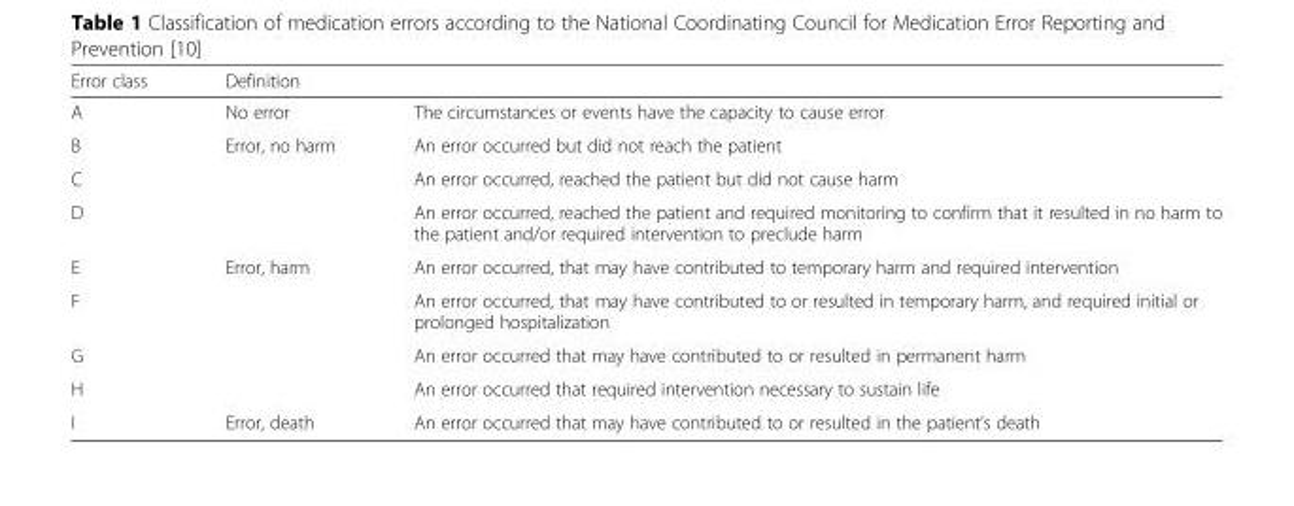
<table><thead><tr><td rowspan="2">Error class A</td><td colspan="2">Definition</td></tr><tr><td>No error</td><td>The circumstances or events have the capacity to cause error</td></tr></thead><tbody><tr><td>B</td><td rowspan="3">Error, no harm</td><td>An error occurred but did not reach the patient</td></tr><tr><td>C</td><td>An error occurred, reached the patient but did not cause harm</td></tr><tr><td>D</td><td>An error occurred, reached the patient and required monitoring to confirm that it resulted in no harm to the patient and/or required intervention to preclude harm</td></tr><tr><td>E</td><td rowspan="4">Error, harm</td><td>An error occurred, that may have contributed to temporary harm and required intervention</td></tr><tr><td>F</td><td>An error occurred, that may have contributed to or resulted in temporary harm, and required initial or prolonged hospitalization</td></tr><tr><td>G</td><td>An error occurred that may have contributed to or resulted in permanent harm</td></tr><tr><td>H</td><td>An error occurred that required intervention necessary to sustain life</td></tr><tr><td>I</td><td>Error, death</td><td>An error occurred that may have contributed to or resulted in the patient’s death</td></tr></tbody></table>